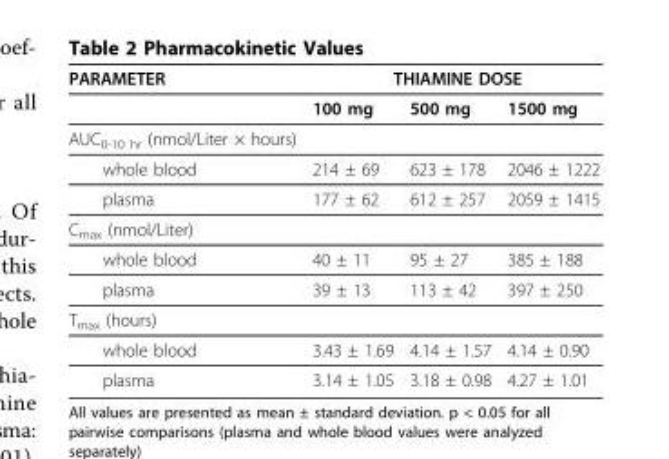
<table><thead><tr><td rowspan="2">PARAMETER</td><td colspan="3">THIAMINE DOSE</td></tr><tr><td>100 mg</td><td>500 mg</td><td>1500 mg</td></tr></thead><tbody><tr><td colspan="4">AUC<sub>0-10 hr</sub> (nmol/Liter × hours)</td></tr><tr><td>whole blood</td><td>214 ± 69</td><td>623 ± 178</td><td>2046 ± 1222</td></tr><tr><td>plasma</td><td>177 ± 62</td><td>612 ± 257</td><td>2059 ± 1415</td></tr><tr><td colspan="4">C<sub>max</sub> (nmol/Liter)</td></tr><tr><td>whole blood</td><td>40 ± 11</td><td>95 ± 27</td><td>385 ± 188</td></tr><tr><td>plasma</td><td>39 ± 13</td><td>113 ± 42</td><td>397 ± 250</td></tr><tr><td colspan="4">T<sub>max</sub> (hours)</td></tr><tr><td>whole blood</td><td>3.43 ± 1.69</td><td>4.14 ± 1.57</td><td>4.14 ± 0.90</td></tr><tr><td>plasma</td><td>3.14 ± 1.05</td><td>3.18 ± 0.98</td><td>4.27 ± 1.01</td></tr></tbody></table>